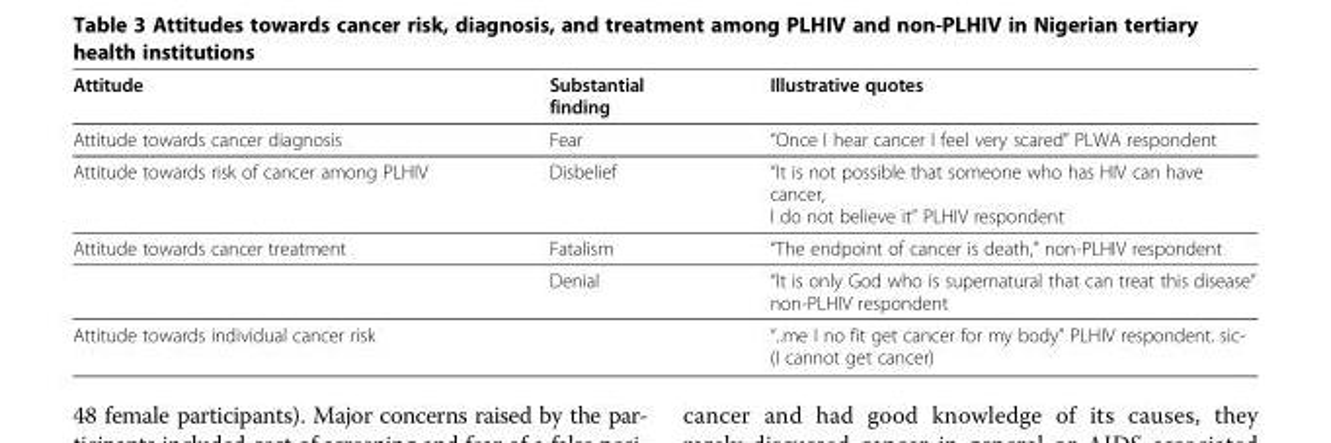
<table><thead><tr><td>Attitude</td><td>Substantial finding</td><td>Illustrative quotes</td></tr></thead><tbody><tr><td>Attitude towards cancer diagnosis</td><td>Fear</td><td>“Once I hear cancer I feel very scared” PLWA respondent</td></tr><tr><td>Attitude towards risk of cancer among PLHIV</td><td>Disbelief</td><td>“It is not possible that someone who has HIV can have cancer, I do not believe it” PLHIV respondent</td></tr><tr><td rowspan="2">Attitude towards cancer treatment</td><td>Fatalism</td><td>“The endpoint of cancer is death,” non-PLHIV respondent</td></tr><tr><td>Denial</td><td>“It is only God who is supernatural that can treat this disease” non-PLHIV respondent</td></tr><tr><td>Attitude towards individual cancer risk</td><td></td><td>“..me I no fit get cancer for my body” PLHIV respondent. sic- (I cannot get cancer)</td></tr></tbody></table>